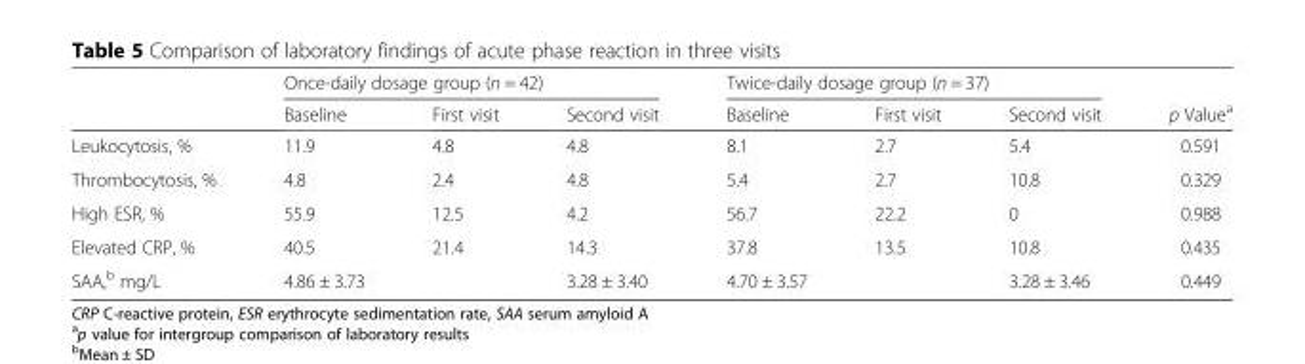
<table><thead><tr><td rowspan="2"></td><td colspan="3">Once-daily dosage group (n = 42)</td><td colspan="3">Twice-daily dosage group (n = 37)</td><td rowspan="2">p Value<sup>a</sup></td></tr><tr><td>Baseline</td><td>First visit</td><td>Second visit</td><td>Baseline</td><td>First visit</td><td>Second visit</td></tr></thead><tbody><tr><td>Leukocytosis, %</td><td>11.9</td><td>4.8</td><td>4.8</td><td>8.1</td><td>2.7</td><td>5.4</td><td>0.591</td></tr><tr><td>Thrombocytosis, %</td><td>4.8</td><td>2.4</td><td>4.8</td><td>5.4</td><td>2.7</td><td>10.8</td><td>0.329</td></tr><tr><td>High ESR, %</td><td>55.9</td><td>12.5</td><td>4.2</td><td>56.7</td><td>22.2</td><td>0</td><td>0.988</td></tr><tr><td>Elevated CRP, %</td><td>40.5</td><td>21.4</td><td>14.3</td><td>37.8</td><td>13.5</td><td>10.8</td><td>0.435</td></tr><tr><td>SAA,<sup>b</sup> mg/L</td><td>4.86 ± 3.73</td><td></td><td>3.28 ± 3.40</td><td>4.70 ± 3.57</td><td></td><td>3.28 ± 3.46</td><td>0.449</td></tr></tbody></table>